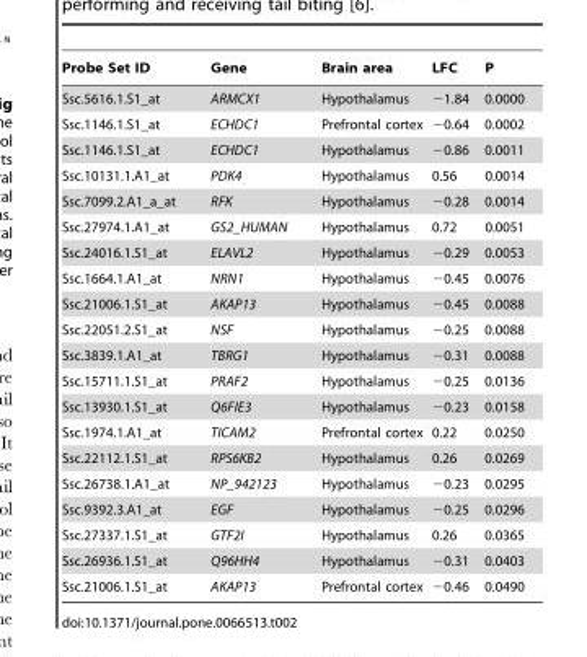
<table><thead><tr><td>Probe Set ID</td><td>Gene</td><td>Brain area</td><td>LFC</td><td>P</td></tr></thead><tbody><tr><td>Ssc.5616.1.S1_at</td><td>ARMCX1</td><td>Hypothalamus</td><td>−1.84</td><td>0.0000</td></tr><tr><td>Ssc.1146.1.S1_at</td><td>ECHDC1</td><td>Prefrontal cortex</td><td>−0.64</td><td>0.0002</td></tr><tr><td>Ssc.1146.1.S1_at</td><td>ECHDC1</td><td>Hypothalamus</td><td>−0.86</td><td>0.0011</td></tr><tr><td>Ssc.10131.1.A1_at</td><td>PDK4</td><td>Hypothalamus</td><td>0.56</td><td>0.0014</td></tr><tr><td>Ssc.7099.2.A1_a_at</td><td>RFK</td><td>Hypothalamus</td><td>−0.28</td><td>0.0014</td></tr><tr><td>Ssc.27974.1.A1_at</td><td>GS2_HUMAN</td><td>Hypothalamus</td><td>0.72</td><td>0.0051</td></tr><tr><td>Ssc.24016.1.S1_at</td><td>ELAVL2</td><td>Hypothalamus</td><td>−0.29</td><td>0.0053</td></tr><tr><td>Ssc.1664.1.A1_at</td><td>NRN1</td><td>Hypothalamus</td><td>−0.45</td><td>0.0076</td></tr><tr><td>Ssc.21006.1.S1_at</td><td>AKAP13</td><td>Hypothalamus</td><td>−0.45</td><td>0.0088</td></tr><tr><td>Ssc.22051.2.S1_at</td><td>NSF</td><td>Hypothalamus</td><td>−0.25</td><td>0.0088</td></tr><tr><td>Ssc.3839.1.A1_at</td><td>TBRG1</td><td>Hypothalamus</td><td>−0.31</td><td>0.0088</td></tr><tr><td>Ssc.15711.1.S1_at</td><td>PRAF2</td><td>Hypothalamus</td><td>−0.25</td><td>0.0136</td></tr><tr><td>Ssc.13930.1.S1_at</td><td>Q6FIE3</td><td>Hypothalamus</td><td>−0.23</td><td>0.0158</td></tr><tr><td>Ssc.1974.1.A1_at</td><td>TICAM2</td><td>Prefrontal cortex</td><td>0.22</td><td>0.0250</td></tr><tr><td>Ssc.22112.1.S1_at</td><td>RPS6KB2</td><td>Hypothalamus</td><td>0.26</td><td>0.0269</td></tr><tr><td>Ssc.26738.1.A1_at</td><td>NP_942123</td><td>Hypothalamus</td><td>−0.23</td><td>0.0295</td></tr><tr><td>Ssc.9392.3.A1_at</td><td>EGF</td><td>Hypothalamus</td><td>−0.25</td><td>0.0296</td></tr><tr><td>Ssc.27337.1.S1_at</td><td>GTF2I</td><td>Hypothalamus</td><td>0.26</td><td>0.0365</td></tr><tr><td>Ssc.26936.1.S1_at</td><td>Q96HH4</td><td>Hypothalamus</td><td>−0.31</td><td>0.0403</td></tr><tr><td>Ssc.21006.1.S1_at</td><td>AKAP13</td><td>Prefrontal cortex</td><td>−0.46</td><td>0.0490</td></tr></tbody></table>